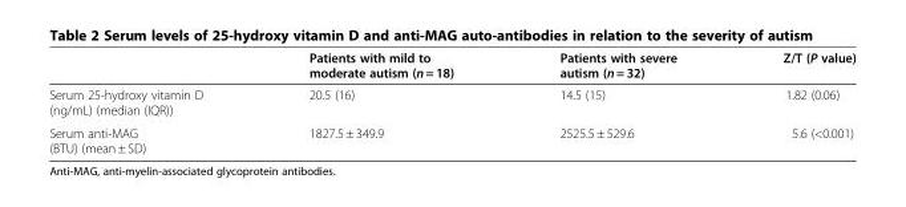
<table><thead><tr><td></td><td>Patients with mild to moderate autism (n = 18)</td><td>Patients with severe autism (n = 32)</td><td>Z/T (P value)</td></tr></thead><tbody><tr><td>Serum 25-hydroxy vitamin D (ng/mL) (median (IQR))</td><td>20.5 (16)</td><td>14.5 (15)</td><td>1.82 (0.06)</td></tr><tr><td>Serum anti-MAG (BTU) (mean ± SD)</td><td>1827.5 ± 349.9</td><td>2525.5 ± 529.6</td><td>5.6 (&lt;0.001)</td></tr></tbody></table>